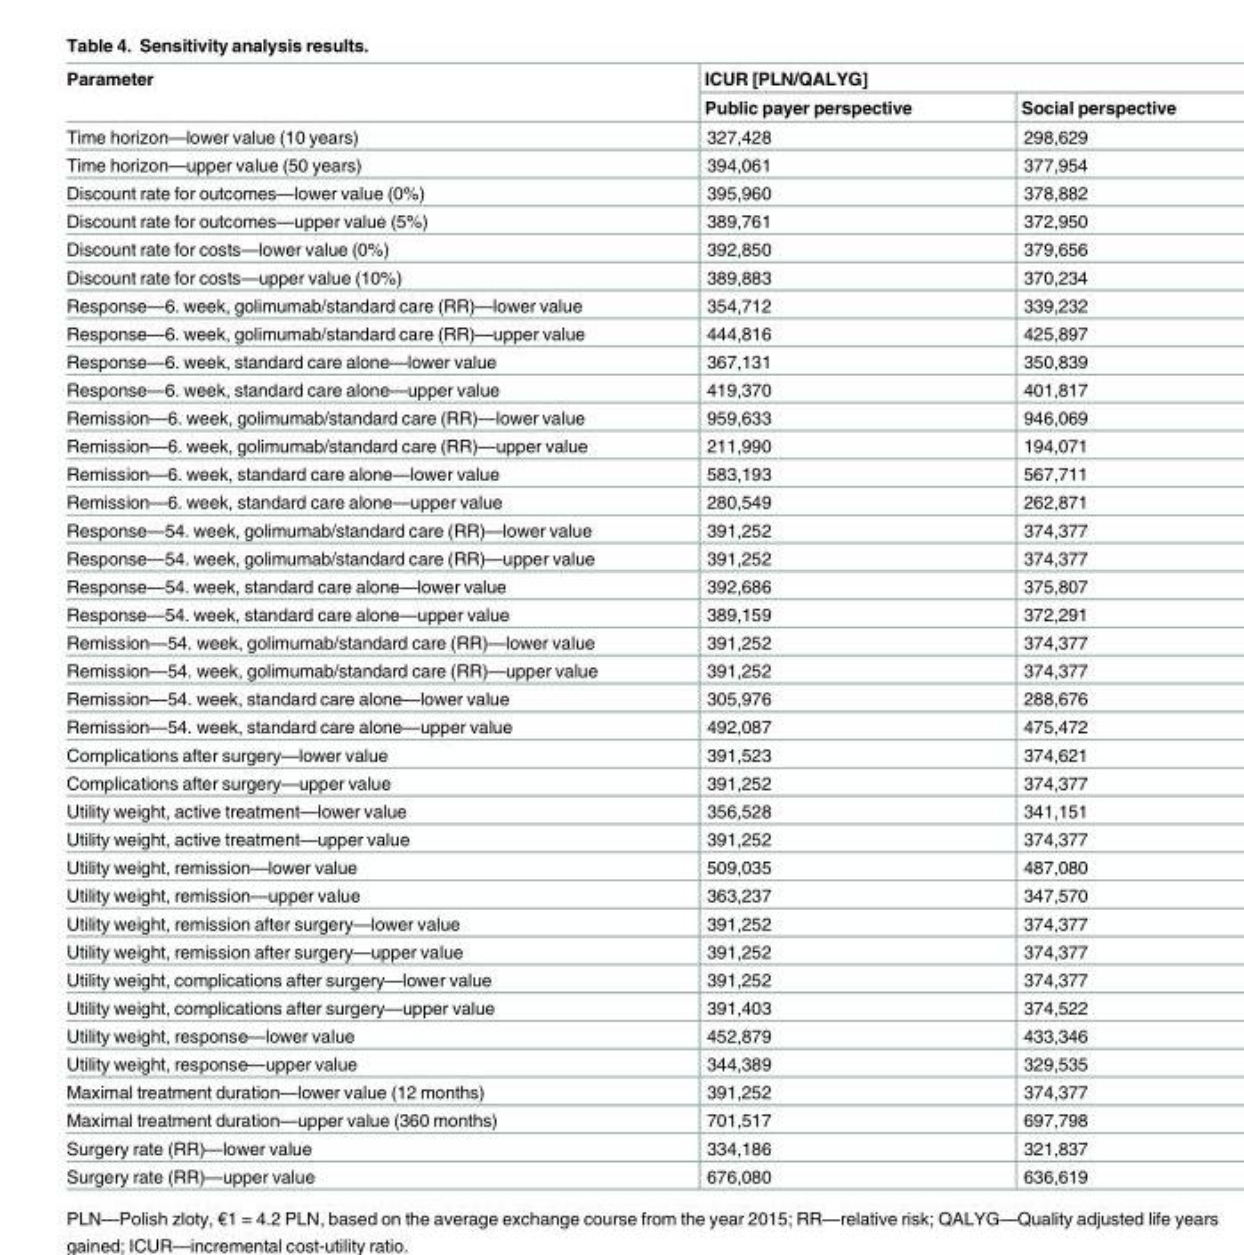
<table><thead><tr><td rowspan="2">Parameter</td><td colspan="2">ICUR [PLN/QALYG]</td></tr><tr><td>Public payer perspective</td><td>Social perspective</td></tr></thead><tbody><tr><td>Time horizon—lower value (10 years)</td><td>327,428</td><td>298,629</td></tr><tr><td>Time horizon—upper value (50 years)</td><td>394,061</td><td>377,954</td></tr><tr><td>Discount rate for outcomes—lower value (0%)</td><td>395,960</td><td>378,882</td></tr><tr><td>Discount rate for outcomes—upper value (5%)</td><td>389,761</td><td>372,950</td></tr><tr><td>Discount rate for costs—lower value (0%)</td><td>392,850</td><td>379,656</td></tr><tr><td>Discount rate for costs—upper value (10%)</td><td>389,883</td><td>370,234</td></tr><tr><td>Response—6. week, golimumab/standard care (RR)—lower value</td><td>354,712</td><td>339,232</td></tr><tr><td>Response—6. week, golimumab/standard care (RR)—upper value</td><td>444,816</td><td>425,897</td></tr><tr><td>Response—6. week, standard care alone—lower value</td><td>367,131</td><td>350,839</td></tr><tr><td>Response—6. week, standard care alone—upper value</td><td>419,370</td><td>401,817</td></tr><tr><td>Remission—6. week, golimumab/standard care (RR)—lower value</td><td>959,633</td><td>946,069</td></tr><tr><td>Remission—6. week, golimumab/standard care (RR)—upper value</td><td>211,990</td><td>194,071</td></tr><tr><td>Remission—6. week, standard care alone—lower value</td><td>583,193</td><td>567,711</td></tr><tr><td>Remission—6. week, standard care alone—upper value</td><td>280,549</td><td>262,871</td></tr><tr><td>Response—54. week, golimumab/standard care (RR)—lower value</td><td>391,252</td><td>374,377</td></tr><tr><td>Response—54. week, golimumab/standard care (RR)—upper value</td><td>391,252</td><td>374,377</td></tr><tr><td>Response—54. week, standard care alone—lower value</td><td>392,686</td><td>375,807</td></tr><tr><td>Response—54. week, standard care alone—upper value</td><td>389,159</td><td>372,291</td></tr><tr><td>Remission—54. week, golimumab/standard care (RR)—lower value</td><td>391,252</td><td>374,377</td></tr><tr><td>Remission—54. week, golimumab/standard care (RR)—upper value</td><td>391,252</td><td>374,377</td></tr><tr><td>Remission—54. week, standard care alone—lower value</td><td>305,976</td><td>288,676</td></tr><tr><td>Remission—54. week, standard care alone—upper value</td><td>492,087</td><td>475,472</td></tr><tr><td>Complications after surgery—lower value</td><td>391,523</td><td>374,621</td></tr><tr><td>Complications after surgery—upper value</td><td>391,252</td><td>374,377</td></tr><tr><td>Utility weight, active treatment—lower value</td><td>356,528</td><td>341,151</td></tr><tr><td>Utility weight, active treatment—upper value</td><td>391,252</td><td>374,377</td></tr><tr><td>Utility weight, remission—lower value</td><td>509,035</td><td>487,080</td></tr><tr><td>Utility weight, remission—upper value</td><td>363,237</td><td>347,570</td></tr><tr><td>Utility weight, remission after surgery—lower value</td><td>391,252</td><td>374,377</td></tr><tr><td>Utility weight, remission after surgery—upper value</td><td>391,252</td><td>374,377</td></tr><tr><td>Utility weight, complications after surgery—lower value</td><td>391,252</td><td>374,377</td></tr><tr><td>Utility weight, complications after surgery—upper value</td><td>391,403</td><td>374,522</td></tr><tr><td>Utility weight, response—lower value</td><td>452,879</td><td>433,346</td></tr><tr><td>Utility weight, response—upper value</td><td>344,389</td><td>329,535</td></tr><tr><td>Maximal treatment duration—lower value (12 months)</td><td>391,252</td><td>374,377</td></tr><tr><td>Maximal treatment duration—upper value (360 months)</td><td>701,517</td><td>697,798</td></tr><tr><td>Surgery rate (RR)—lower value</td><td>334,186</td><td>321,837</td></tr><tr><td>Surgery rate (RR)—upper value</td><td>676,080</td><td>636,619</td></tr></tbody></table>